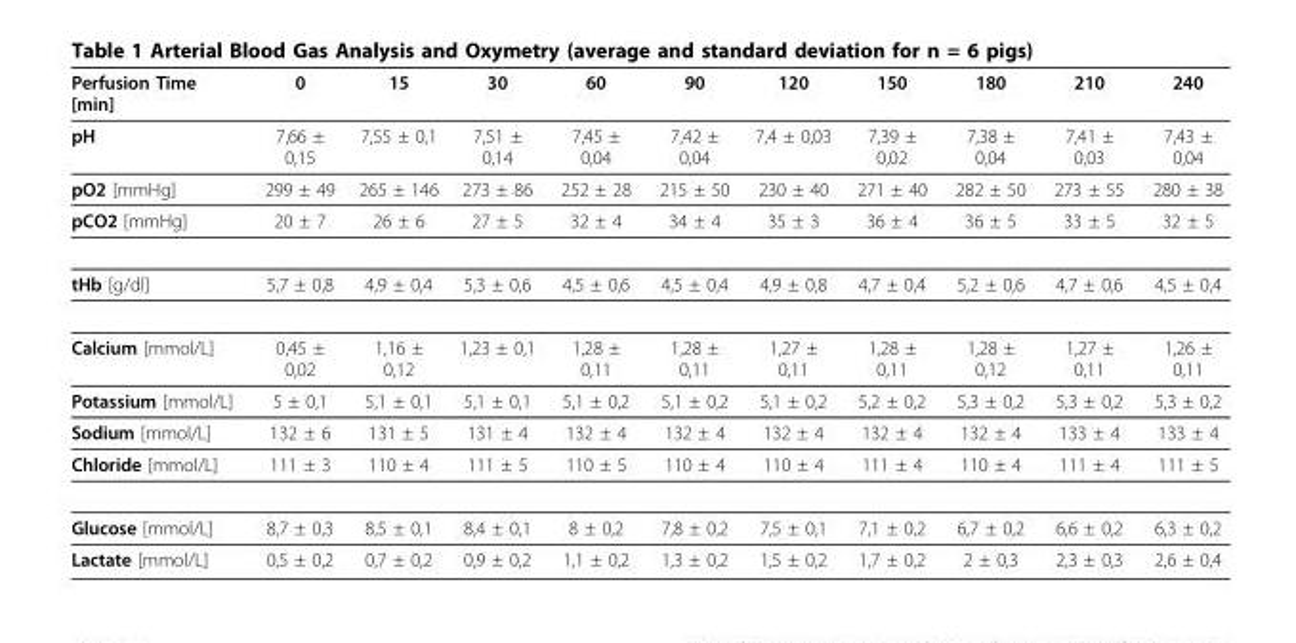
<table><thead><tr><td>Perfusion Time [min]</td><td>0</td><td>15</td><td>30</td><td>60</td><td>90</td><td>120</td><td>150</td><td>180</td><td>210</td><td>240</td></tr></thead><tbody><tr><td>pH</td><td>7,66 ± 0,15</td><td>7,55 ± 0,1</td><td>7,51 ± 0,14</td><td>7,45 ± 0,04</td><td>7,42 ± 0,04</td><td>7,4 ± 0,03</td><td>7,39 ± 0,02</td><td>7,38 ± 0,04</td><td>7,41 ± 0,03</td><td>7,43 ± 0,04</td></tr><tr><td>pO2 [mmHg]</td><td>299 ± 49</td><td>265 ± 146</td><td>273 ± 86</td><td>252 ± 28</td><td>215 ± 50</td><td>230 ± 40</td><td>271 ± 40</td><td>282 ± 50</td><td>273 ± 55</td><td>280 ± 38</td></tr><tr><td>pCO2 [mmHg]</td><td>20 ± 7</td><td>26 ± 6</td><td>27 ± 5</td><td>32 ± 4</td><td>34 ± 4</td><td>35 ± 3</td><td>36 ± 4</td><td>36 ± 5</td><td>33 ± 5</td><td>32 ± 5</td></tr><tr><td>tHb [g/dl]</td><td>5,7 ± 0,8</td><td>4,9 ± 0,4</td><td>5,3 ± 0,6</td><td>4,5 ± 0,6</td><td>4,5 ± 0,4</td><td>4,9 ± 0,8</td><td>4,7 ± 0,4</td><td>5,2 ± 0,6</td><td>4,7 ± 0,6</td><td>4,5 ± 0,4</td></tr><tr><td>Calcium [mmol/L]</td><td>0,45 ± 0,02</td><td>1,16 ± 0,12</td><td>1,23 ± 0,1</td><td>1,28 ± 0,11</td><td>1,28 ± 0,11</td><td>1,27 ± 0,11</td><td>1,28 ± 0,11</td><td>1,28 ± 0,12</td><td>1,27 ± 0,11</td><td>1,26 ± 0,11</td></tr><tr><td>Potassium [mmol/L]</td><td>5 ± 0,1</td><td>5,1 ± 0,1</td><td>5,1 ± 0,1</td><td>5,1 ± 0,2</td><td>5,1 ± 0,2</td><td>5,1 ± 0,2</td><td>5,2 ± 0,2</td><td>5,3 ± 0,2</td><td>5,3 ± 0,2</td><td>5,3 ± 0,2</td></tr><tr><td>Sodium [mmol/L]</td><td>132 ± 6</td><td>131 ± 5</td><td>131 ± 4</td><td>132 ± 4</td><td>132 ± 4</td><td>132 ± 4</td><td>132 ± 4</td><td>132 ± 4</td><td>133 ± 4</td><td>133 ± 4</td></tr><tr><td>Chloride [mmol/L]</td><td>111 ± 3</td><td>110 ± 4</td><td>111 ± 5</td><td>110 ± 5</td><td>110 ± 4</td><td>110 ± 4</td><td>111 ± 4</td><td>110 ± 4</td><td>111 ± 4</td><td>111 ± 5</td></tr><tr><td>Glucose [mmol/L]</td><td>8,7 ± 0,3</td><td>8,5 ± 0,1</td><td>8,4 ± 0,1</td><td>8 ± 0,2</td><td>7,8 ± 0,2</td><td>7,5 ± 0,1</td><td>7,1 ± 0,2</td><td>6,7 ± 0,2</td><td>6,6 ± 0,2</td><td>6,3 ± 0,2</td></tr><tr><td>Lactate [mmol/L]</td><td>0,5 ± 0,2</td><td>0,7 ± 0,2</td><td>0,9 ± 0,2</td><td>1,1 ± 0,2</td><td>1,3 ± 0,2</td><td>1,5 ± 0,2</td><td>1,7 ± 0,2</td><td>2 ± 0,3</td><td>2,3 ± 0,3</td><td>2,6 ± 0,4</td></tr></tbody></table>